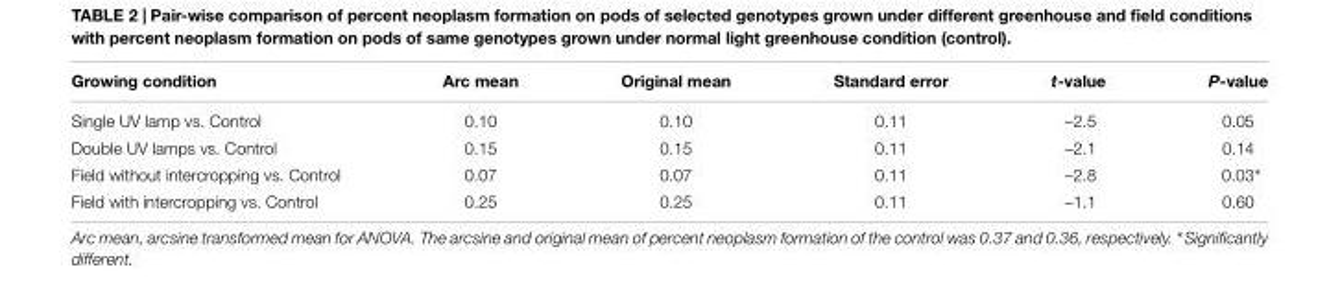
<table><thead><tr><td>Growing condition</td><td>Arc mean</td><td>Original mean</td><td>Standard error</td><td>t-value</td><td>P-value</td></tr></thead><tbody><tr><td>Single UV lamp vs. Control</td><td>0.10</td><td>0.10</td><td>0.11</td><td>–2.5</td><td>0.05</td></tr><tr><td>Double UV lamps vs. Control</td><td>0.15</td><td>0.15</td><td>0.11</td><td>–2.1</td><td>0.14</td></tr><tr><td>Field without intercropping vs. Control</td><td>0.07</td><td>0.07</td><td>0.11</td><td>–2.8</td><td>0.03∗</td></tr><tr><td>Field with intercropping vs. Control</td><td>0.25</td><td>0.25</td><td>0.11</td><td>–1.1</td><td>0.60</td></tr></tbody></table>